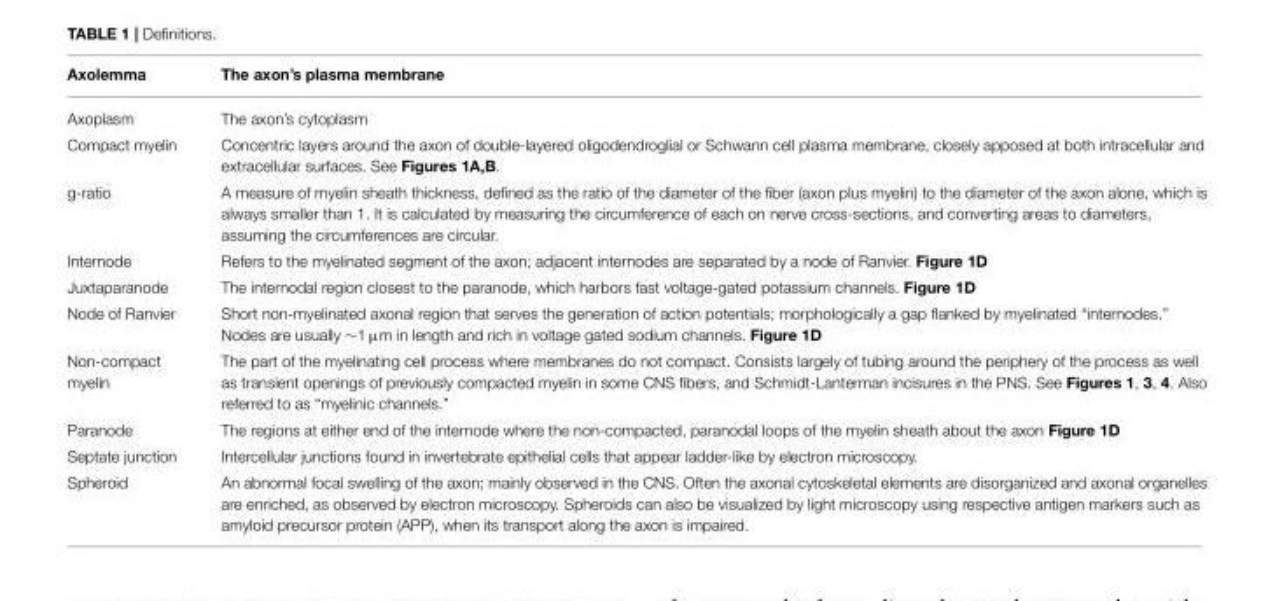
<table><thead><tr><td>Axolemma</td><td>The axon’s plasma membrane</td></tr></thead><tbody><tr><td>Axoplasm</td><td>The axon’s cytoplasm</td></tr><tr><td>Compact myelin</td><td>Concentric layers around the axon of double-layered oligodendroglial or Schwann cell plasma membrane, closely apposed at both intracellular and extracellular surfaces. See Figures 1A,B.</td></tr><tr><td>g-ratio</td><td>A measure of myelin sheath thickness, defined as the ratio of the diameter of the fiber (axon plus myelin) to the diameter of the axon alone, which is always smaller than 1. It is calculated by measuring the circumference of each on nerve cross-sections, and converting areas to diameters, assuming the circumferences are circular.</td></tr><tr><td>Internode</td><td>Refers to the myelinated segment of the axon; adjacent internodes are separated by a node of Ranvier. Figure 1D</td></tr><tr><td>Juxtaparanode</td><td>The internodal region closest to the paranode, which harbors fast voltage-gated potassium channels. Figure 1D</td></tr><tr><td>Node of Ranvier</td><td>Short non-myelinated axonal region that serves the generation of action potentials; morphologically a gap flanked by myelinated “internodes.” Nodes are usually ∼1 µm in length and rich in voltage gated sodium channels. Figure 1D</td></tr><tr><td>Non-compact myelin</td><td>The part of the myelinating cell process where membranes do not compact. Consists largely of tubing around the periphery of the process as well as transient openings of previously compacted myelin in some CNS fibers, and Schmidt-Lanterman incisures in the PNS. See Figures 1, 3, 4. Also referred to as “myelinic channels.”</td></tr><tr><td>Paranode</td><td>The regions at either end of the internode where the non-compacted, paranodal loops of the myelin sheath about the axon Figure 1D</td></tr><tr><td>Septate junction</td><td>Intercellular junctions found in invertebrate epithelial cells that appear ladder-like by electron microscopy.</td></tr><tr><td>Spheroid</td><td>An abnormal focal swelling of the axon; mainly observed in the CNS. Often the axonal cytoskeletal elements are disorganized and axonal organelles are enriched, as observed by electron microscopy. Spheroids can also be visualized by light microscopy using respective antigen markers such as amyloid precursor protein (APP), when its transport along the axon is impaired.</td></tr></tbody></table>